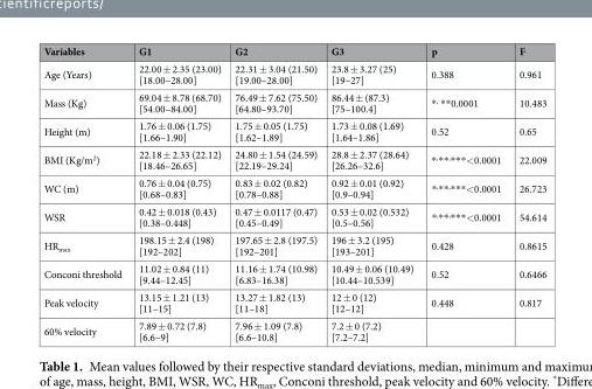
<table><thead><tr><td>Variables</td><td>G1</td><td>G2</td><td>G3</td><td>p</td><td>F</td></tr></thead><tbody><tr><td>Age (Years)</td><td>22.00 ± 2.35 (23.00) [18.00–28.00]</td><td>22.31 ± 3.04 (21.50) [19.00–28.00]</td><td>23.8 ± 3.27 (25) [19–27]</td><td>0.388</td><td>0.961</td></tr><tr><td>Mass (Kg)</td><td>69.04 ± 8.78 (68.70) [54.00–84.00]</td><td>76.49 ± 7.62 (75.50) [64.80–93.70]</td><td>86.44 ± (87.3) [75–100.4]</td><td>*<sup>,</sup> **0.0001</td><td>10.483</td></tr><tr><td>Height (m)</td><td>1.76 ± 0.06 (1.75) [1.66–1.90]</td><td>1.75 ± 0.05 (1.75) [1.62–1.89]</td><td>1.73 ± 0.08 (1.69) [1.64–1.86]</td><td>0.52</td><td>0.65</td></tr><tr><td>BMI (Kg/m<sup>2</sup>)</td><td>22.18 ± 2.33 (22.12) [18.46–26.65]</td><td>24.80 ± 1.54 (24.59) [22.19–29.24]</td><td>28.8 ± 2.37 (28.64) [26.26–32.6]</td><td>*<sup>,</sup>**<sup>,</sup>***&lt;0.0001</td><td>22.009</td></tr><tr><td>WC (m)</td><td>0.76 ± 0.04 (0.75) [0.68–0.83]</td><td>0.83 ± 0.02 (0.82) [0.78–0.88]</td><td>0.92 ± 0.01 (0.92) [0.9–0.94]</td><td>*<sup>,</sup>**<sup>,</sup>***&lt;0.0001</td><td>26.723</td></tr><tr><td>WSR</td><td>0.42 ± 0.018 (0.43) [0.38–0.448]</td><td>0.47 ± 0.0117 (0.47) [0.45–0.49]</td><td>0.53 ± 0.02 (0.532) [0.5–0.56]</td><td>*<sup>,</sup>**<sup>,</sup>***&lt;0.0001</td><td>54.614</td></tr><tr><td>HR<sub>max</sub></td><td>198.15 ± 2.4 (198) [192–202]</td><td>197.65 ± 2.8 (197.5) [192–201]</td><td>196 ± 3.2 (195) [193–201]</td><td>0.428</td><td>0.8615</td></tr><tr><td>Conconi threshold</td><td>11.02 ± 0.84 (11) [9.44–12.45]</td><td>11.16 ± 1.74 (10.98) [6.83–16.38]</td><td>10.49 ± 0.06 (10.49) [10.44–10.539]</td><td>0.52</td><td>0.6466</td></tr><tr><td>Peak velocity</td><td>13.15 ± 1.21 (13) [11–15]</td><td>13.27 ± 1.82 (13) [11–18]</td><td>12 ± 0 (12) [12–12]</td><td>0.448</td><td>0.817</td></tr><tr><td>60% velocity</td><td>7.89 ± 0.72 (7.8) [6.6–9]</td><td>7.96 ± 1.09 (7.8) [6.6–10.8]</td><td>7.2 ± 0 (7.2) [7.2–7.2]</td><td></td><td></td></tr></tbody></table>